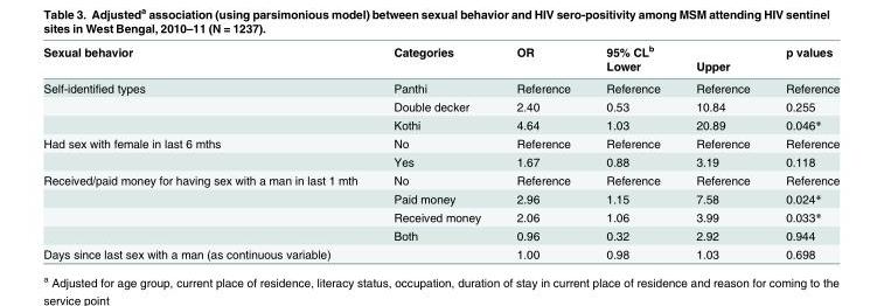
<table><thead><tr><td rowspan="2">Sexual behavior</td><td rowspan="2">Categories</td><td rowspan="2">OR</td><td rowspan="2">95% CL<sup>b</sup> Lower</td><td rowspan="2">Upper</td><td rowspan="2">p values</td></tr><tr></tr></thead><tbody><tr><td rowspan="3">Self-identified types</td><td>Panthi</td><td>Reference</td><td>Reference</td><td>Reference</td><td>Reference</td></tr><tr><td>Double decker</td><td>2.40</td><td>0.53</td><td>10.84</td><td>0.255</td></tr><tr><td>Kothi</td><td>4.64</td><td>1.03</td><td>20.89</td><td>0.046*</td></tr><tr><td rowspan="2">Had sex with female in last 6 mths</td><td>No</td><td>Reference</td><td>Reference</td><td>Reference</td><td>Reference</td></tr><tr><td>Yes</td><td>1.67</td><td>0.88</td><td>3.19</td><td>0.118</td></tr><tr><td rowspan="4">Received/paid money for having sex with a man in last 1 mth</td><td>No</td><td>Reference</td><td>Reference</td><td>Reference</td><td>Reference</td></tr><tr><td>Paid money</td><td>2.96</td><td>1.15</td><td>7.58</td><td>0.024*</td></tr><tr><td>Received money</td><td>2.06</td><td>1.06</td><td>3.99</td><td>0.033*</td></tr><tr><td>Both</td><td>0.96</td><td>0.32</td><td>2.92</td><td>0.944</td></tr><tr><td>Days since last sex with a man (as continuous variable)</td><td></td><td>1.00</td><td>0.98</td><td>1.03</td><td>0.698</td></tr></tbody></table>